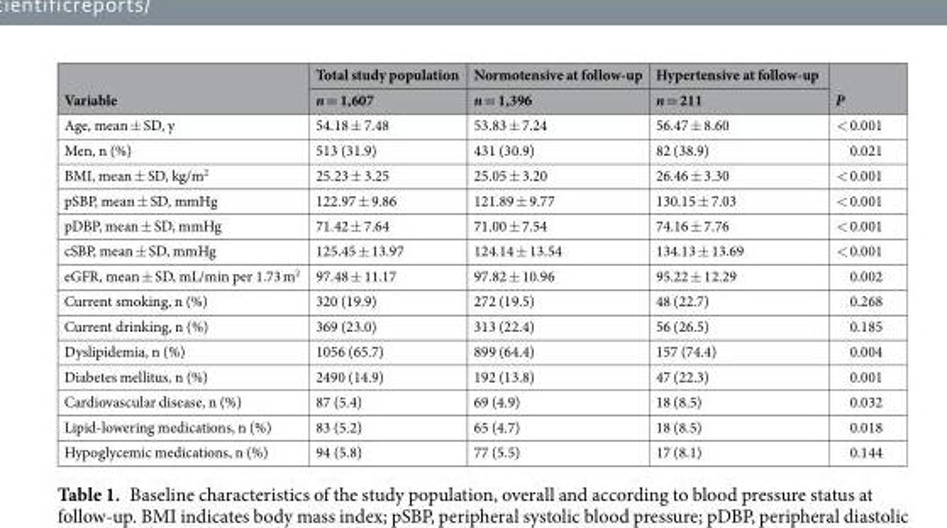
<table><thead><tr><td rowspan="2">Variable</td><td rowspan="2">Total study population n = 1,607</td><td rowspan="2">Normotensive at follow-up n = 1,396</td><td rowspan="2">Hypertensive at follow-up n = 211</td><td rowspan="2">P</td></tr><tr></tr></thead><tbody><tr><td>Age, mean ± SD, y</td><td>54.18 ± 7.48</td><td>53.83 ± 7.24</td><td>56.47 ± 8.60</td><td>&lt; 0.001</td></tr><tr><td>Men, n (%)</td><td>513 (31.9)</td><td>431 (30.9)</td><td>82 (38.9)</td><td>0.021</td></tr><tr><td>BMI, mean ± SD, kg/m<sup>2</sup></td><td>25.23 ± 3.25</td><td>25.05 ± 3.20</td><td>26.46 ± 3.30</td><td>&lt; 0.001</td></tr><tr><td>pSBP, mean ± SD, mmHg</td><td>122.97 ± 9.86</td><td>121.89 ± 9.77</td><td>130.15 ± 7.03</td><td>&lt; 0.001</td></tr><tr><td>pDBP, mean ± SD, mmHg</td><td>71.42 ± 7.64</td><td>71.00 ± 7.54</td><td>74.16 ± 7.76</td><td>&lt; 0.001</td></tr><tr><td>cSBP, mean ± SD, mmHg</td><td>125.45 ± 13.97</td><td>124.14 ± 13.54</td><td>134.13 ± 13.69</td><td>&lt; 0.001</td></tr><tr><td>eGFR, mean ± SD, mL/min per 1.73 m<sup>2</sup></td><td>97.48 ± 11.17</td><td>97.82 ± 10.96</td><td>95.22 ± 12.29</td><td>0.002</td></tr><tr><td>Current smoking, n (%)</td><td>320 (19.9)</td><td>272 (19.5)</td><td>48 (22.7)</td><td>0.268</td></tr><tr><td>Current drinking, n (%)</td><td>369 (23.0)</td><td>313 (22.4)</td><td>56 (26.5)</td><td>0.185</td></tr><tr><td>Dyslipidemia, n (%)</td><td>1056 (65.7)</td><td>899 (64.4)</td><td>157 (74.4)</td><td>0.004</td></tr><tr><td>Diabetes mellitus, n (%)</td><td>2490 (14.9)</td><td>192 (13.8)</td><td>47 (22.3)</td><td>0.001</td></tr><tr><td>Cardiovascular disease, n (%)</td><td>87 (5.4)</td><td>69 (4.9)</td><td>18 (8.5)</td><td>0.032</td></tr><tr><td>Lipid-lowering medications, n (%)</td><td>83 (5.2)</td><td>65 (4.7)</td><td>18 (8.5)</td><td>0.018</td></tr><tr><td>Hypoglycemic medications, n (%)</td><td>94 (5.8)</td><td>77 (5.5)</td><td>17 (8.1)</td><td>0.144</td></tr></tbody></table>